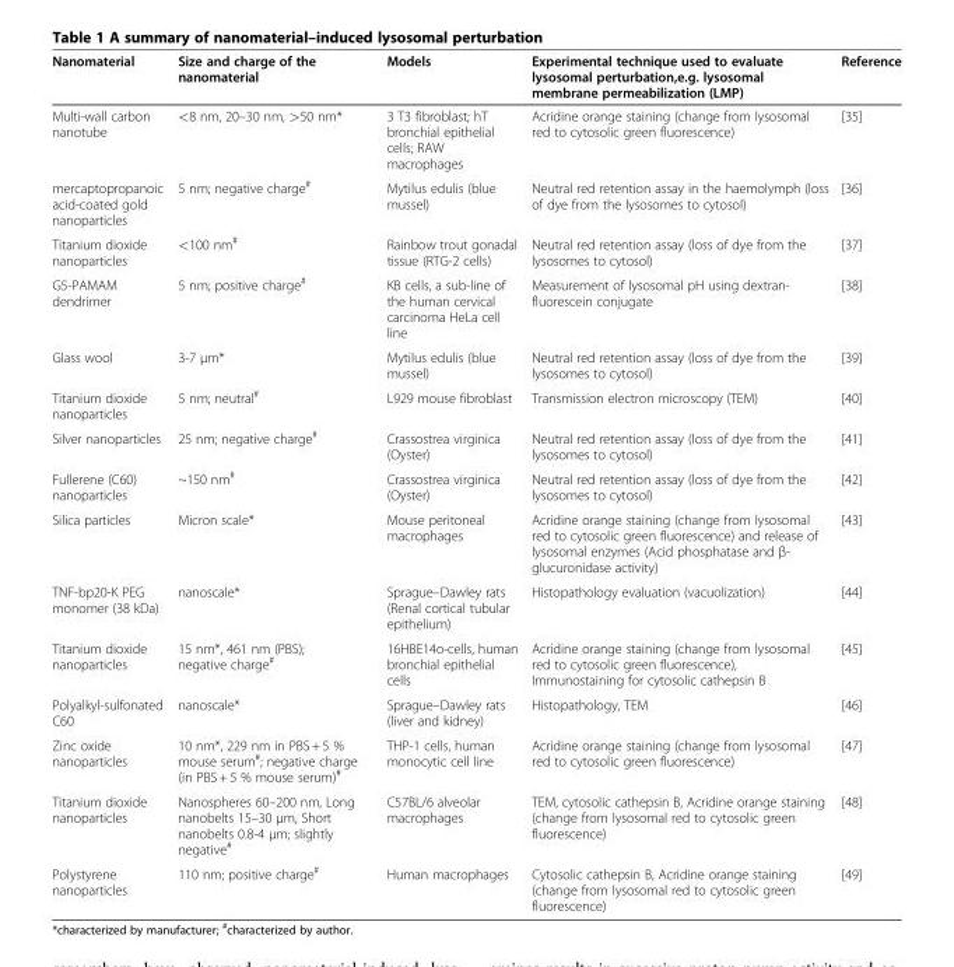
<table><thead><tr><td>Nanomaterial</td><td>Size and charge of the nanomaterial</td><td>Models</td><td>Experimental technique used to evaluate lysosomal perturbation,e.g. lysosomal membrane permeabilization (LMP)</td><td>Reference</td></tr></thead><tbody><tr><td>Multi-wall carbon nanotube</td><td>&lt;8 nm, 20–30 nm, &gt;50 nm*</td><td>3 T3 fibroblast; hT bronchial epithelial cells; RAW macrophages</td><td>Acridine orange staining (change from lysosomal red to cytosolic green fluorescence)</td><td>[35]</td></tr><tr><td>mercaptopropanoic acid-coated gold nanoparticles</td><td>5 nm; negative charge<sup>#</sup></td><td>Mytilus edulis (blue mussel)</td><td>Neutral red retention assay in the haemolymph (loss of dye from the lysosomes to cytosol)</td><td>[36]</td></tr><tr><td>Titanium dioxide nanoparticles</td><td>&lt;100 nm<sup>#</sup></td><td>Rainbow trout gonadal tissue (RTG-2 cells)</td><td>Neutral red retention assay (loss of dye from the lysosomes to cytosol)</td><td>[37]</td></tr><tr><td>G5-PAMAM dendrimer</td><td>5 nm; positive charge<sup>#</sup></td><td>KB cells, a sub-line of the human cervical carcinoma HeLa cell line</td><td>Measurement of lysosomal pH using dextran- fluorescein conjugate</td><td>[38]</td></tr><tr><td>Glass wool</td><td>3-7 μm*</td><td>Mytilus edulis (blue mussel)</td><td>Neutral red retention assay (loss of dye from the lysosomes to cytosol)</td><td>[39]</td></tr><tr><td>Titanium dioxide nanoparticles</td><td>5 nm; neutral<sup>#</sup></td><td>L929 mouse fibroblast</td><td>Transmission electron microscopy (TEM)</td><td>[40]</td></tr><tr><td>Silver nanoparticles</td><td>25 nm; negative charge<sup>#</sup></td><td>Crassostrea virginica (Oyster)</td><td>Neutral red retention assay (loss of dye from the lysosomes to cytosol)</td><td>[41]</td></tr><tr><td>Fullerene (C60) nanoparticles</td><td>~150 nm<sup>#</sup></td><td>Crassostrea virginica (Oyster)</td><td>Neutral red retention assay (loss of dye from the lysosomes to cytosol)</td><td>[42]</td></tr><tr><td>Silica particles</td><td>Micron scale*</td><td>Mouse peritoneal macrophages</td><td>Acridine orange staining (change from lysosomal red to cytosolic green fluorescence) and release of lysosomal enzymes (Acid phosphatase and β- glucuronidase activity)</td><td>[43]</td></tr><tr><td>TNF-bp20-K PEG monomer (38 kDa)</td><td>nanoscale*</td><td>Sprague–Dawley rats (Renal cortical tubular epithelium)</td><td>Histopathology evaluation (vacuolization)</td><td>[44]</td></tr><tr><td>Titanium dioxide nanoparticles</td><td>15 nm*, 461 nm (PBS); negative charge<sup>#</sup></td><td>16HBE14o-cells, human bronchial epithelial cells</td><td>Acridine orange staining (change from lysosomal red to cytosolic green fluorescence), Immunostaining for cytosolic cathepsin B</td><td>[45]</td></tr><tr><td>Polyalkyl-sulfonated C60</td><td>nanoscale*</td><td>Sprague–Dawley rats (liver and kidney)</td><td>Histopathology, TEM</td><td>[46]</td></tr><tr><td>Zinc oxide nanoparticles</td><td>10 nm*, 229 nm in PBS + 5 % mouse serum<sup>#</sup>; negative charge (in PBS + 5 % mouse serum)<sup>#</sup></td><td>THP-1 cells, human monocytic cell line</td><td>Acridine orange staining (change from lysosomal red to cytosolic green fluorescence)</td><td>[47]</td></tr><tr><td>Titanium dioxide nanoparticles</td><td>Nanospheres 60–200 nm, Long nanobelts 15–30 μm, Short nanobelts 0.8-4 μm; slightly negative<sup>#</sup></td><td>C57BL/6 alveolar macrophages</td><td>TEM, cytosolic cathepsin B, Acridine orange staining (change from lysosomal red to cytosolic green fluorescence)</td><td>[48]</td></tr><tr><td>Polystyrene nanoparticles</td><td>110 nm; positive charge<sup>#</sup></td><td>Human macrophages</td><td>Cytosolic cathepsin B, Acridine orange staining (change from lysosomal red to cytosolic green fluorescence)</td><td>[49]</td></tr></tbody></table>